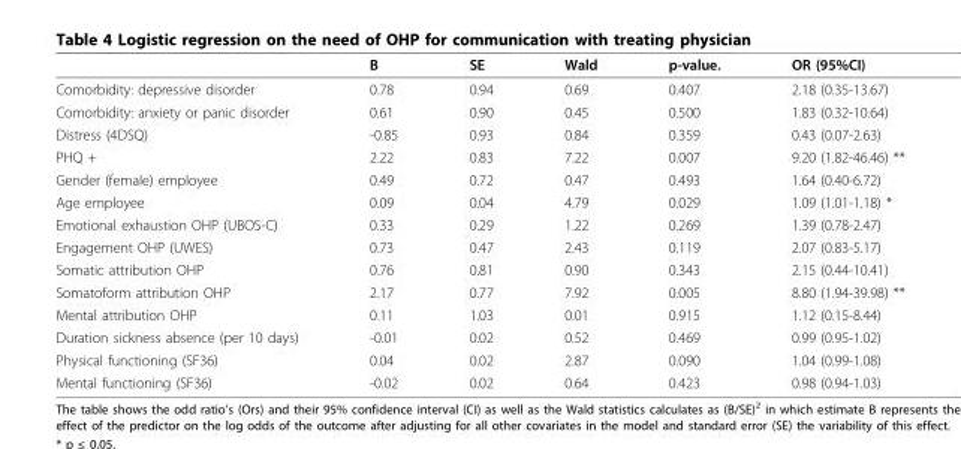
<table><thead><tr><td></td><td>B</td><td>SE</td><td>Wald</td><td>p-value.</td><td>OR (95%CI)</td></tr></thead><tbody><tr><td>Comorbidity: depressive disorder</td><td>0.78</td><td>0.94</td><td>0.69</td><td>0.407</td><td>2.18 (0.35-13.67)</td></tr><tr><td>Comorbidity: anxiety or panic disorder</td><td>0.61</td><td>0.90</td><td>0.45</td><td>0.500</td><td>1.83 (0.32-10.64)</td></tr><tr><td>Distress (4DSQ)</td><td>-0.85</td><td>0.93</td><td>0.84</td><td>0.359</td><td>0.43 (0.07-2.63)</td></tr><tr><td>PHQ +</td><td>2.22</td><td>0.83</td><td>7.22</td><td>0.007</td><td>9.20 (1.82-46.46) **</td></tr><tr><td>Gender (female) employee</td><td>0.49</td><td>0.72</td><td>0.47</td><td>0.493</td><td>1.64 (0.40-6.72)</td></tr><tr><td>Age employee</td><td>0.09</td><td>0.04</td><td>4.79</td><td>0.029</td><td>1.09 (1.01-1.18) *</td></tr><tr><td>Emotional exhaustion OHP (UBOS-C)</td><td>0.33</td><td>0.29</td><td>1.22</td><td>0.269</td><td>1.39 (0.78-2.47)</td></tr><tr><td>Engagement OHP (UWES)</td><td>0.73</td><td>0.47</td><td>2.43</td><td>0.119</td><td>2.07 (0.83-5.17)</td></tr><tr><td>Somatic attribution OHP</td><td>0.76</td><td>0.81</td><td>0.90</td><td>0.343</td><td>2.15 (0.44-10.41)</td></tr><tr><td>Somatoform attribution OHP</td><td>2.17</td><td>0.77</td><td>7.92</td><td>0.005</td><td>8.80 (1.94-39.98) **</td></tr><tr><td>Mental attribution OHP</td><td>0.11</td><td>1.03</td><td>0.01</td><td>0.915</td><td>1.12 (0.15-8.44)</td></tr><tr><td>Duration sickness absence (per 10 days)</td><td>-0.01</td><td>0.02</td><td>0.52</td><td>0.469</td><td>0.99 (0.95-1.02)</td></tr><tr><td>Physical functioning (SF36)</td><td>0.04</td><td>0.02</td><td>2.87</td><td>0.090</td><td>1.04 (0.99-1.08)</td></tr><tr><td>Mental functioning (SF36)</td><td>-0.02</td><td>0.02</td><td>0.64</td><td>0.423</td><td>0.98 (0.94-1.03)</td></tr></tbody></table>